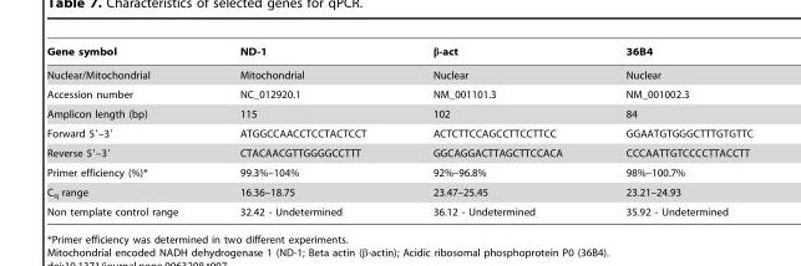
<table><thead><tr><td>Gene symbol</td><td>ND-1</td><td>β-act</td><td>36B4</td></tr></thead><tbody><tr><td>Nuclear/Mitochondrial</td><td>Mitochondrial</td><td>Nuclear</td><td>Nuclear</td></tr><tr><td>Accession number</td><td>NC_012920.1</td><td>NM_001101.3</td><td>NM_001002.3</td></tr><tr><td>Amplicon length (bp)</td><td>115</td><td>102</td><td>84</td></tr><tr><td>Forward 5′–3′</td><td>ATGGCCAACCTCCTACTCCT</td><td>ACTCTTCCAGCCTTCCTTCC</td><td>GGAATGTGGGCTTTGTGTTC</td></tr><tr><td>Reverse 5′–3′</td><td>CTACAACGTTGGGGCCTTT</td><td>GGCAGGACTTAGCTTCCACA</td><td>CCCAATTGTCCCCTTACCTT</td></tr><tr><td>Primer efficiency (%)*</td><td>99.3%–104%</td><td>92%–96.8%</td><td>98%–100.7%</td></tr><tr><td>C<sub>q</sub> range</td><td>16.36–18.75</td><td>23.47–25.45</td><td>23.21–24.93</td></tr><tr><td>Non template control range</td><td>32.42 - Undetermined</td><td>36.12 - Undetermined</td><td>35.92 - Undetermined</td></tr></tbody></table>